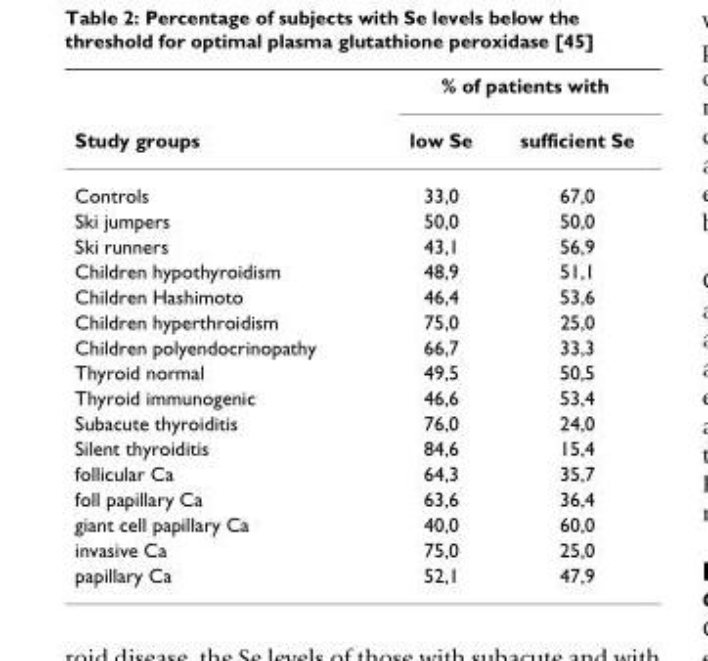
<table><thead><tr><td rowspan="2">Study groups</td><td colspan="2">% of patients with</td></tr><tr><td>low Se</td><td>sufficient Se</td></tr></thead><tbody><tr><td>Controls</td><td>33,0</td><td>67,0</td></tr><tr><td>Ski jumpers</td><td>50,0</td><td>50,0</td></tr><tr><td>Ski runners</td><td>43,1</td><td>56,9</td></tr><tr><td>Children hypothyroidism</td><td>48,9</td><td>51,1</td></tr><tr><td>Children Hashimoto</td><td>46,4</td><td>53,6</td></tr><tr><td>Children hyperthroidism</td><td>75,0</td><td>25,0</td></tr><tr><td>Children polyendocrinopathy</td><td>66,7</td><td>33,3</td></tr><tr><td>Thyroid normal</td><td>49,5</td><td>50,5</td></tr><tr><td>Thyroid immunogenic</td><td>46,6</td><td>53,4</td></tr><tr><td>Subacute thyroiditis</td><td>76,0</td><td>24,0</td></tr><tr><td>Silent thyroiditis</td><td>84,6</td><td>15,4</td></tr><tr><td>follicular Ca</td><td>64,3</td><td>35,7</td></tr><tr><td>foll papillary Ca</td><td>63,6</td><td>36,4</td></tr><tr><td>giant cell papillary Ca</td><td>40,0</td><td>60,0</td></tr><tr><td>invasive Ca</td><td>75,0</td><td>25,0</td></tr><tr><td>papillary Ca</td><td>52,1</td><td>47,9</td></tr></tbody></table>